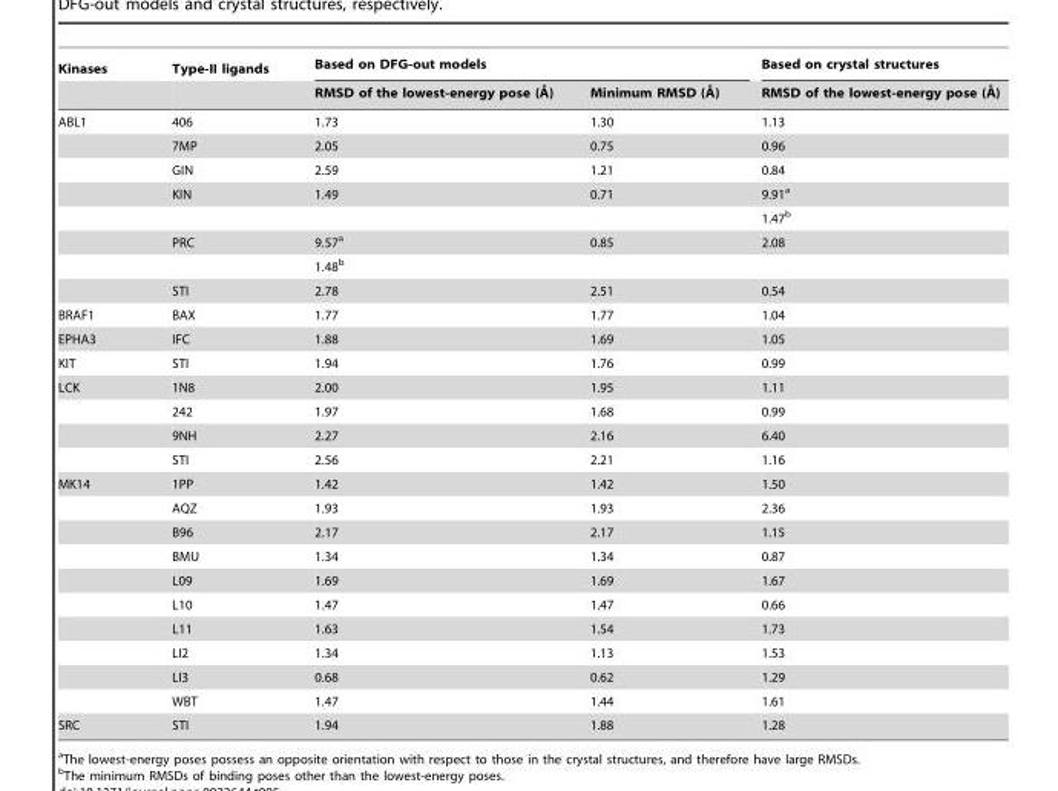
<table><thead><tr><td rowspan="2">Kinases</td><td rowspan="2">Type-II ligands</td><td colspan="2">Based on DFG-out models</td><td rowspan="2">Based on crystal structures RMSD of the lowest-energy pose (A˚ )</td></tr><tr><td>RMSD of the lowest-energy pose (A˚ )</td><td>Minimum RMSD (A˚ )</td></tr></thead><tbody><tr><td rowspan="8">ABL1</td><td>406</td><td>1.73</td><td>1.30</td><td>1.13</td></tr><tr><td>7MP</td><td>2.05</td><td>0.75</td><td>0.96</td></tr><tr><td>GIN</td><td>2.59</td><td>1.21</td><td>0.84</td></tr><tr><td>KIN</td><td>1.49</td><td>0.71</td><td>9.91<sup>a</sup></td></tr><tr><td></td><td></td><td></td><td>1.47<sup>b</sup></td></tr><tr><td>PRC</td><td>9.57<sup>a</sup></td><td>0.85</td><td>2.08</td></tr><tr><td></td><td>1.48<sup>b</sup></td><td></td><td></td></tr><tr><td>STI</td><td>2.78</td><td>2.51</td><td>0.54</td></tr><tr><td>BRAF1</td><td>BAX</td><td>1.77</td><td>1.77</td><td>1.04</td></tr><tr><td>EPHA3</td><td>IFC</td><td>1.88</td><td>1.69</td><td>1.05</td></tr><tr><td>KIT</td><td>STI</td><td>1.94</td><td>1.76</td><td>0.99</td></tr><tr><td rowspan="4">LCK</td><td>1N8</td><td>2.00</td><td>1.95</td><td>1.11</td></tr><tr><td>242</td><td>1.97</td><td>1.68</td><td>0.99</td></tr><tr><td>9NH</td><td>2.27</td><td>2.16</td><td>6.40</td></tr><tr><td>STI</td><td>2.56</td><td>2.21</td><td>1.16</td></tr><tr><td rowspan="10">MK14</td><td>1PP</td><td>1.42</td><td>1.42</td><td>1.50</td></tr><tr><td>AQZ</td><td>1.93</td><td>1.93</td><td>2.36</td></tr><tr><td>B96</td><td>2.17</td><td>2.17</td><td>1.15</td></tr><tr><td>BMU</td><td>1.34</td><td>1.34</td><td>0.87</td></tr><tr><td>L09</td><td>1.69</td><td>1.69</td><td>1.67</td></tr><tr><td>L10</td><td>1.47</td><td>1.47</td><td>0.66</td></tr><tr><td>L11</td><td>1.63</td><td>1.54</td><td>1.73</td></tr><tr><td>LI2</td><td>1.34</td><td>1.13</td><td>1.53</td></tr><tr><td>LI3</td><td>0.68</td><td>0.62</td><td>1.29</td></tr><tr><td>WBT</td><td>1.47</td><td>1.44</td><td>1.61</td></tr><tr><td>SRC</td><td>STI</td><td>1.94</td><td>1.88</td><td>1.28</td></tr></tbody></table>